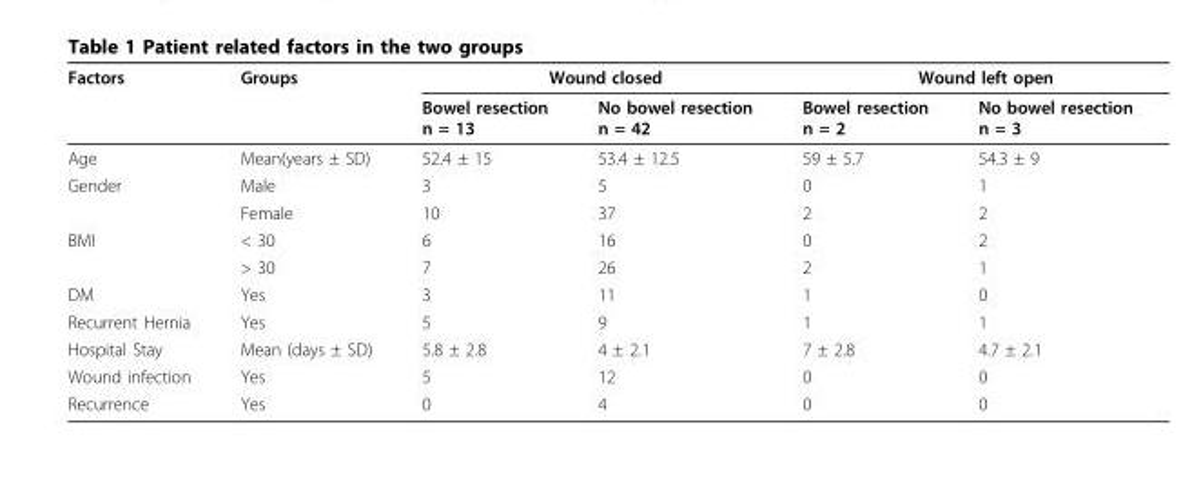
<table><thead><tr><td rowspan="2">Factors</td><td rowspan="2">Groups</td><td colspan="2">Wound closed</td><td colspan="2">Wound left open</td></tr><tr><td>Bowel resection n = 13</td><td>No bowel resection n = 42</td><td>Bowel resection n = 2</td><td>No bowel resection n = 3</td></tr></thead><tbody><tr><td>Age</td><td>Mean(years ± SD)</td><td>52.4 ± 15</td><td>53.4 ± 12.5</td><td>59 ± 5.7</td><td>54.3 ± 9</td></tr><tr><td rowspan="2">Gender</td><td>Male</td><td>3</td><td>5</td><td>0</td><td>1</td></tr><tr><td>Female</td><td>10</td><td>37</td><td>2</td><td>2</td></tr><tr><td rowspan="2">BMI</td><td>&lt; 30</td><td>6</td><td>16</td><td>0</td><td>2</td></tr><tr><td>&gt; 30</td><td>7</td><td>26</td><td>2</td><td>1</td></tr><tr><td>DM</td><td>Yes</td><td>3</td><td>11</td><td>1</td><td>0</td></tr><tr><td>Recurrent Hernia</td><td>Yes</td><td>5</td><td>9</td><td>1</td><td>1</td></tr><tr><td>Hospital Stay</td><td>Mean (days ± SD)</td><td>5.8 ± 2.8</td><td>4 ± 2.1</td><td>7 ± 2.8</td><td>4.7 ± 2.1</td></tr><tr><td>Wound infection</td><td>Yes</td><td>5</td><td>12</td><td>0</td><td>0</td></tr><tr><td>Recurrence</td><td>Yes</td><td>0</td><td>4</td><td>0</td><td>0</td></tr></tbody></table>